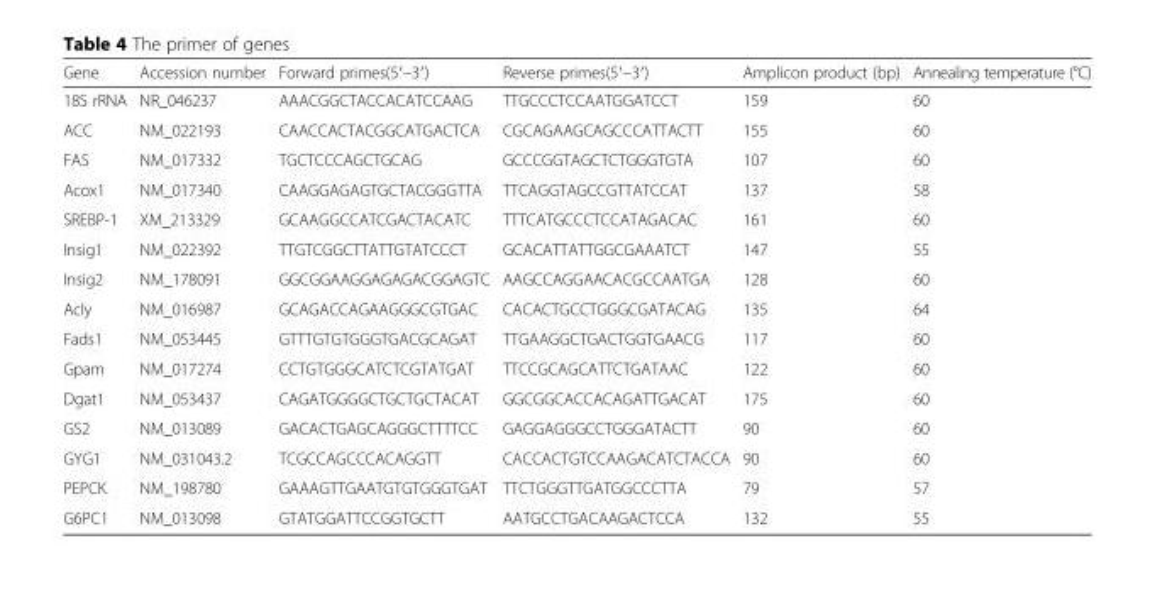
<table><thead><tr><td>Gene</td><td>Accession number</td><td>Forward primes(5′–3′)</td><td>Reverse primes(5′–3′)</td><td>Amplicon product (bp)</td><td>Annealing temperature (°C)</td></tr></thead><tbody><tr><td>18S rRNA</td><td>NR_046237</td><td>AAACGGCTACCACATCCAAG</td><td>TTGCCCTCCAATGGATCCT</td><td>159</td><td>60</td></tr><tr><td>ACC</td><td>NM_022193</td><td>CAACCACTACGGCATGACTCA</td><td>CGCAGAAGCAGCCCATTACTT</td><td>155</td><td>60</td></tr><tr><td>FAS</td><td>NM_017332</td><td>TGCTCCCAGCTGCAG</td><td>GCCCGGTAGCTCTGGGTGTA</td><td>107</td><td>60</td></tr><tr><td>Acox1</td><td>NM_017340</td><td>CAAGGAGAGTGCTACGGGTTA</td><td>TTCAGGTAGCCGTTATCCAT</td><td>137</td><td>58</td></tr><tr><td>SREBP-1</td><td>XM_213329</td><td>GCAAGGCCATCGACTACATC</td><td>TTTCATGCCCTCCATAGACAC</td><td>161</td><td>60</td></tr><tr><td>Insig1</td><td>NM_022392</td><td>TTGTCGGCTTATTGTATCCCT</td><td>GCACATTATTGGCGAAATCT</td><td>147</td><td>55</td></tr><tr><td>Insig2</td><td>NM_178091</td><td>GGCGGAAGGAGAGACGGAGTC</td><td>AAGCCAGGAACACGCCAATGA</td><td>128</td><td>60</td></tr><tr><td>Acly</td><td>NM_016987</td><td>GCAGACCAGAAGGGCGTGAC</td><td>CACACTGCCTGGGCGATACAG</td><td>135</td><td>64</td></tr><tr><td>Fads1</td><td>NM_053445</td><td>GTTTGTGTGGGTGACGCAGAT</td><td>TTGAAGGCTGACTGGTGAACG</td><td>117</td><td>60</td></tr><tr><td>Gpam</td><td>NM_017274</td><td>CCTGTGGGCATCTCGTATGAT</td><td>TTCCGCAGCATTCTGATAAC</td><td>122</td><td>60</td></tr><tr><td>Dgat1</td><td>NM_053437</td><td>CAGATGGGGCTGCTGCTACAT</td><td>GGCGGCACCACAGATTGACAT</td><td>175</td><td>60</td></tr><tr><td>GS2</td><td>NM_013089</td><td>GACACTGAGCAGGGCTTTTCC</td><td>GAGGAGGGCCTGGGATACTT</td><td>90</td><td>60</td></tr><tr><td>GYG1</td><td>NM_031043.2</td><td>TCGCCAGCCCACAGGTT</td><td>CACCACTGTCCAAGACATCTACCA</td><td>90</td><td>60</td></tr><tr><td>PEPCK</td><td>NM_198780</td><td>GAAAGTTGAATGTGTGGGTGAT</td><td>TTCTGGGTTGATGGCCCTTA</td><td>79</td><td>57</td></tr><tr><td>G6PC1</td><td>NM_013098</td><td>GTATGGATTCCGGTGCTT</td><td>AATGCCTGACAAGACTCCA</td><td>132</td><td>55</td></tr></tbody></table>